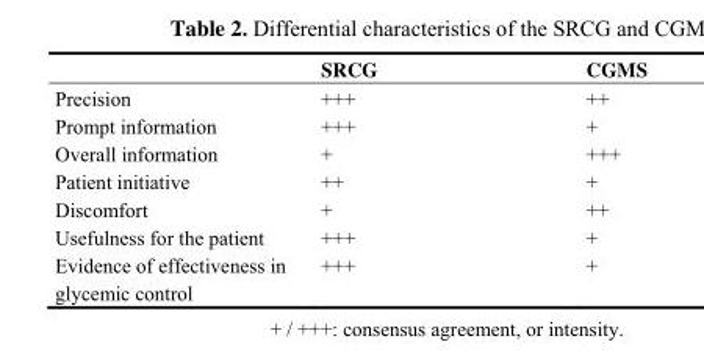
<table><thead><tr><td></td><td>SRCG</td><td>CGMS</td></tr></thead><tbody><tr><td>Precision</td><td>+++</td><td>++</td></tr><tr><td>Prompt information</td><td>+++</td><td>+</td></tr><tr><td>Overall information</td><td>+</td><td>+++</td></tr><tr><td>Patient initiative</td><td>++</td><td>+</td></tr><tr><td>Discomfort</td><td>+</td><td>++</td></tr><tr><td>Usefulness for the patient</td><td>+++</td><td>+</td></tr><tr><td>Evidence of effectiveness in glycemic control</td><td>+++</td><td>+</td></tr></tbody></table>